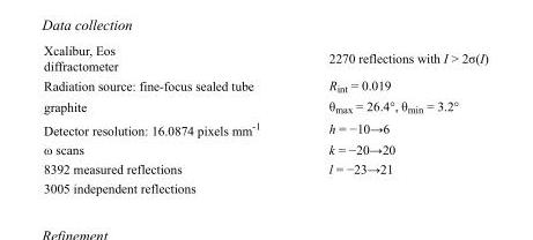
<table><tbody><tr><td>Xcalibur, Eos diffractometer</td><td>2270 reflections with I &gt; 2σ(I)</td></tr><tr><td>Radiation source: fine-focus sealed tube</td><td>R<sub>int</sub> = 0.019</td></tr><tr><td>graphite</td><td>θ<sub>max</sub> = 26.4°, θ<sub>min</sub> = 3.2°</td></tr><tr><td>Detector resolution: 16.0874 pixels mm<sup>-1</sup></td><td>h = −10→6</td></tr><tr><td>ω scans</td><td>k = −20→20</td></tr><tr><td>8392 measured reflections</td><td>l = −23→21</td></tr><tr><td>3005 independent reflections</td><td></td></tr></tbody></table>